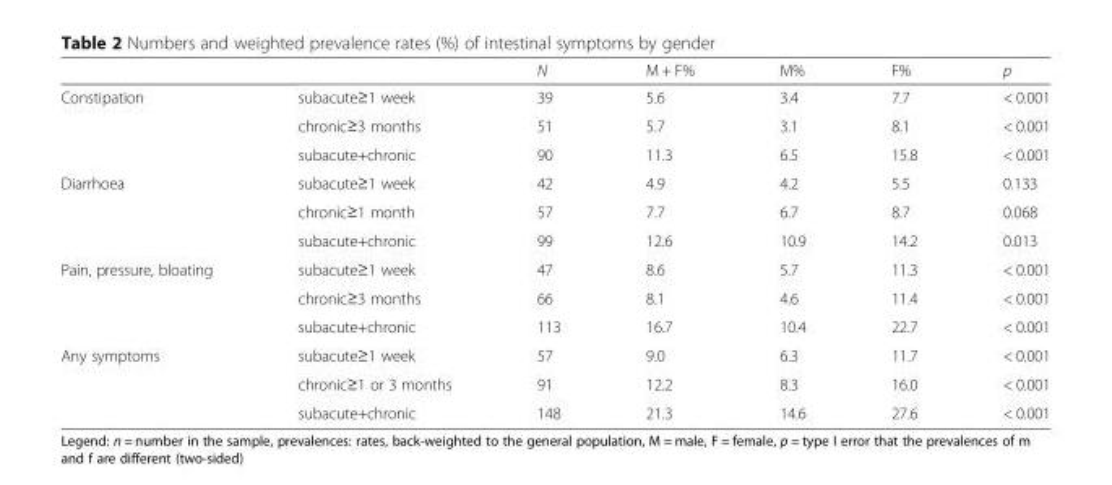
<table><thead><tr><td></td><td></td><td>N</td><td>M + F%</td><td>M%</td><td>F%</td><td>p</td></tr></thead><tbody><tr><td rowspan="3">Constipation</td><td>subacute≥1 week</td><td>39</td><td>5.6</td><td>3.4</td><td>7.7</td><td>&lt; 0.001</td></tr><tr><td>chronic≥3 months</td><td>51</td><td>5.7</td><td>3.1</td><td>8.1</td><td>&lt; 0.001</td></tr><tr><td>subacute+chronic</td><td>90</td><td>11.3</td><td>6.5</td><td>15.8</td><td>&lt; 0.001</td></tr><tr><td rowspan="3">Diarrhoea</td><td>subacute≥1 week</td><td>42</td><td>4.9</td><td>4.2</td><td>5.5</td><td>0.133</td></tr><tr><td>chronic≥1 month</td><td>57</td><td>7.7</td><td>6.7</td><td>8.7</td><td>0.068</td></tr><tr><td>subacute+chronic</td><td>99</td><td>12.6</td><td>10.9</td><td>14.2</td><td>0.013</td></tr><tr><td rowspan="3">Pain, pressure, bloating</td><td>subacute≥1 week</td><td>47</td><td>8.6</td><td>5.7</td><td>11.3</td><td>&lt; 0.001</td></tr><tr><td>chronic≥3 months</td><td>66</td><td>8.1</td><td>4.6</td><td>11.4</td><td>&lt; 0.001</td></tr><tr><td>subacute+chronic</td><td>113</td><td>16.7</td><td>10.4</td><td>22.7</td><td>&lt; 0.001</td></tr><tr><td rowspan="3">Any symptoms</td><td>subacute≥1 week</td><td>57</td><td>9.0</td><td>6.3</td><td>11.7</td><td>&lt; 0.001</td></tr><tr><td>chronic≥1 or 3 months</td><td>91</td><td>12.2</td><td>8.3</td><td>16.0</td><td>&lt; 0.001</td></tr><tr><td>subacute+chronic</td><td>148</td><td>21.3</td><td>14.6</td><td>27.6</td><td>&lt; 0.001</td></tr></tbody></table>